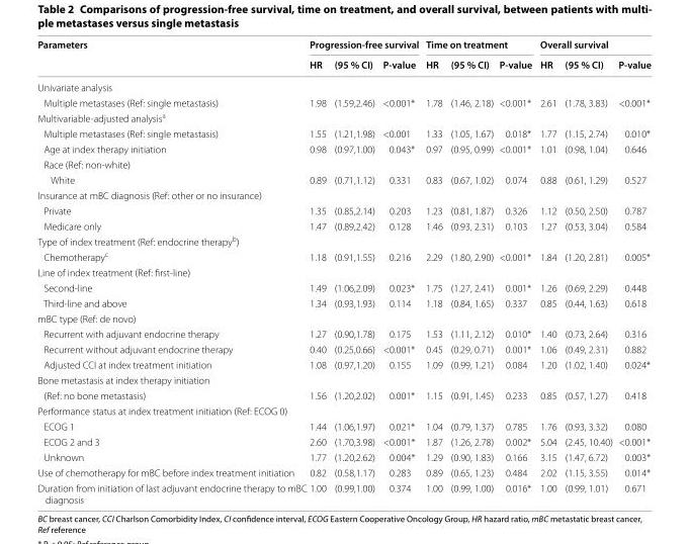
<table><thead><tr><td rowspan="2">Parameters</td><td colspan="3">Progression‑free survival</td><td colspan="3">Time on treatment</td><td colspan="3">Overall survival</td></tr><tr><td>HR</td><td>(95 % CI)</td><td>P‑value</td><td>HR</td><td>(95 % CI)</td><td>P‑value</td><td>HR</td><td>(95 % CI)</td><td>P‑value</td></tr></thead><tbody><tr><td colspan="10">Univariate analysis</td></tr><tr><td>Multiple metastases (Ref: single metastasis)</td><td>1.98</td><td>(1.59,2.46)</td><td>&lt;0.001*</td><td>1.78</td><td>(1.46, 2.18)</td><td>&lt;0.001*</td><td>2.61</td><td>(1.78, 3.83)</td><td>&lt;0.001*</td></tr><tr><td colspan="10">Multivariable-adjusted analysis<sup>a</sup></td></tr><tr><td>Multiple metastases (Ref: single metastasis)</td><td>1.55</td><td>(1.21,1.98)</td><td>&lt;0.001</td><td>1.33</td><td>(1.05, 1.67)</td><td>0.018*</td><td>1.77</td><td>(1.15, 2.74)</td><td>0.010*</td></tr><tr><td>Age at index therapy initiation</td><td>0.98</td><td>(0.97,1.00)</td><td>0.043*</td><td>0.97</td><td>(0.95, 0.99)</td><td>&lt;0.001*</td><td>1.01</td><td>(0.98, 1.04)</td><td>0.646</td></tr><tr><td colspan="10">Race (Ref: non-white)</td></tr><tr><td>White</td><td>0.89</td><td>(0.71,1.12)</td><td>0.331</td><td>0.83</td><td>(0.67, 1.02)</td><td>0.074</td><td>0.88</td><td>(0.61, 1.29)</td><td>0.527</td></tr><tr><td colspan="10">Insurance at mBC diagnosis (Ref: other or no insurance)</td></tr><tr><td>Private</td><td>1.35</td><td>(0.85,2.14)</td><td>0.203</td><td>1.23</td><td>(0.81, 1.87)</td><td>0.326</td><td>1.12</td><td>(0.50, 2.50)</td><td>0.787</td></tr><tr><td>Medicare only</td><td>1.47</td><td>(0.89,2.42)</td><td>0.128</td><td>1.46</td><td>(0.93, 2.31)</td><td>0.103</td><td>1.27</td><td>(0.53, 3.04)</td><td>0.584</td></tr><tr><td colspan="10">Type of index treatment (Ref: endocrine therapy<sup>b</sup>)</td></tr><tr><td>Chemotherapy<sup>c</sup></td><td>1.18</td><td>(0.91,1.55)</td><td>0.216</td><td>2.29</td><td>(1.80, 2.90)</td><td>&lt;0.001*</td><td>1.84</td><td>(1.20, 2.81)</td><td>0.005*</td></tr><tr><td colspan="10">Line of index treatment (Ref: first-line)</td></tr><tr><td>Second-line</td><td>1.49</td><td>(1.06,2.09)</td><td>0.023*</td><td>1.75</td><td>(1.27, 2.41)</td><td>0.001*</td><td>1.26</td><td>(0.69, 2.29)</td><td>0.448</td></tr><tr><td>Third-line and above</td><td>1.34</td><td>(0.93,1.93)</td><td>0.114</td><td>1.18</td><td>(0.84, 1.65)</td><td>0.337</td><td>0.85</td><td>(0.44, 1.63)</td><td>0.618</td></tr><tr><td colspan="10">mBC type (Ref: de novo)</td></tr><tr><td>Recurrent with adjuvant endocrine therapy</td><td>1.27</td><td>(0.90,1.78)</td><td>0.175</td><td>1.53</td><td>(1.11, 2.12)</td><td>0.010*</td><td>1.40</td><td>(0.73, 2.64)</td><td>0.316</td></tr><tr><td>Recurrent without adjuvant endocrine therapy</td><td>0.40</td><td>(0.25,0.66)</td><td>&lt;0.001*</td><td>0.45</td><td>(0.29, 0.71)</td><td>0.001*</td><td>1.06</td><td>(0.49, 2.31)</td><td>0.882</td></tr><tr><td>Adjusted CCI at index treatment initiation</td><td>1.08</td><td>(0.97,1.20)</td><td>0.155</td><td>1.09</td><td>(0.99, 1.21)</td><td>0.084</td><td>1.20</td><td>(1.02, 1.40)</td><td>0.024*</td></tr><tr><td colspan="10">Bone metastasis at index therapy initiation</td></tr><tr><td>(Ref: no bone metastasis)</td><td>1.56</td><td>(1.20,2.02)</td><td>0.001*</td><td>1.15</td><td>(0.91, 1.45)</td><td>0.233</td><td>0.85</td><td>(0.57, 1.27)</td><td>0.418</td></tr><tr><td colspan="10">Performance status at index treatment initiation (Ref: ECOG 0)</td></tr><tr><td>ECOG 1</td><td>1.44</td><td>(1.06,1.97)</td><td>0.021*</td><td>1.04</td><td>(0.79, 1.37)</td><td>0.785</td><td>1.76</td><td>(0.93, 3.32)</td><td>0.080</td></tr><tr><td>ECOG 2 and 3</td><td>2.60</td><td>(1.70,3.98)</td><td>&lt;0.001*</td><td>1.87</td><td>(1.26, 2.78)</td><td>0.002*</td><td>5.04</td><td>(2.45, 10.40)</td><td>&lt;0.001*</td></tr><tr><td>Unknown</td><td>1.77</td><td>(1.20,2.62)</td><td>0.004*</td><td>1.29</td><td>(0.90, 1.83)</td><td>0.166</td><td>3.15</td><td>(1.47, 6.72)</td><td>0.003*</td></tr><tr><td>Use of chemotherapy for mBC before index treatment initiation</td><td>0.82</td><td>(0.58,1.17)</td><td>0.283</td><td>0.89</td><td>(0.65, 1.23)</td><td>0.484</td><td>2.02</td><td>(1.15, 3.55)</td><td>0.014*</td></tr><tr><td>Duration from initiation of last adjuvant endocrine therapy to mBC diagnosis</td><td>1.00</td><td>(0.99,1.00)</td><td>0.374</td><td>1.00</td><td>(0.99, 1.00)</td><td>0.016*</td><td>1.00</td><td>(0.99, 1.01)</td><td>0.671</td></tr></tbody></table>